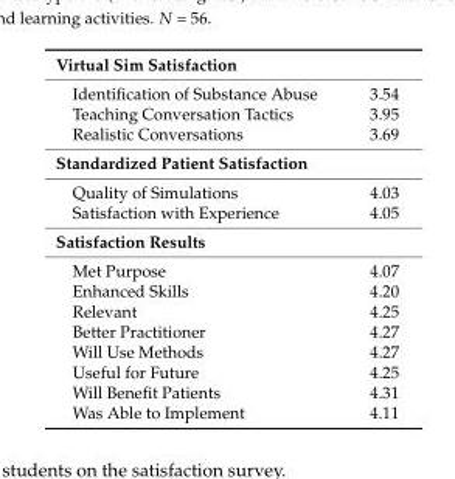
<table><tbody><tr><td colspan="2">Virtual Sim Satisfaction</td></tr><tr><td>Identification of Substance Abuse</td><td>3.54</td></tr><tr><td>Teaching Conversation Tactics</td><td>3.95</td></tr><tr><td>Realistic Conversations</td><td>3.69</td></tr><tr><td colspan="2">Standardized Patient Satisfaction</td></tr><tr><td>Quality of Simulations</td><td>4.03</td></tr><tr><td>Satisfaction with Experience</td><td>4.05</td></tr><tr><td colspan="2">Satisfaction Results</td></tr><tr><td>Met Purpose</td><td>4.07</td></tr><tr><td>Enhanced Skills</td><td>4.20</td></tr><tr><td>Relevant</td><td>4.25</td></tr><tr><td>Better Practitioner</td><td>4.27</td></tr><tr><td>Will Use Methods</td><td>4.27</td></tr><tr><td>Useful for Future</td><td>4.25</td></tr><tr><td>Will Benefit Patients</td><td>4.31</td></tr><tr><td>Was Able to Implement</td><td>4.11</td></tr></tbody></table>